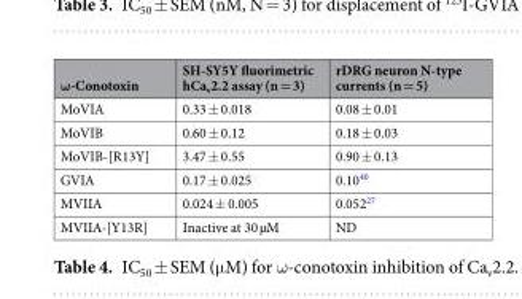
<table><thead><tr><td>ω-Conotoxin</td><td>SH-SY5Y fluorimetric hCa<sub>v</sub>2.2 assay (n = 3)</td><td>rDRG neuron N-type currents (n = 5)</td></tr></thead><tbody><tr><td>MoVIA</td><td>0.33 ± 0.018</td><td>0.08 ± 0.01</td></tr><tr><td>MoVIB</td><td>0.60 ± 0.12</td><td>0.18 ± 0.03</td></tr><tr><td>MoVIB-[R13Y]</td><td>3.47 ± 0.55</td><td>0.90 ± 0.13</td></tr><tr><td>GVIA</td><td>0.17 ± 0.025</td><td>0.10<sup>40</sup></td></tr><tr><td>MVIIA</td><td>0.024 ± 0.005</td><td>0.052<sup>27</sup></td></tr><tr><td>MVIIA-[Y13R]</td><td>Inactive at 30 µM</td><td>ND</td></tr></tbody></table>